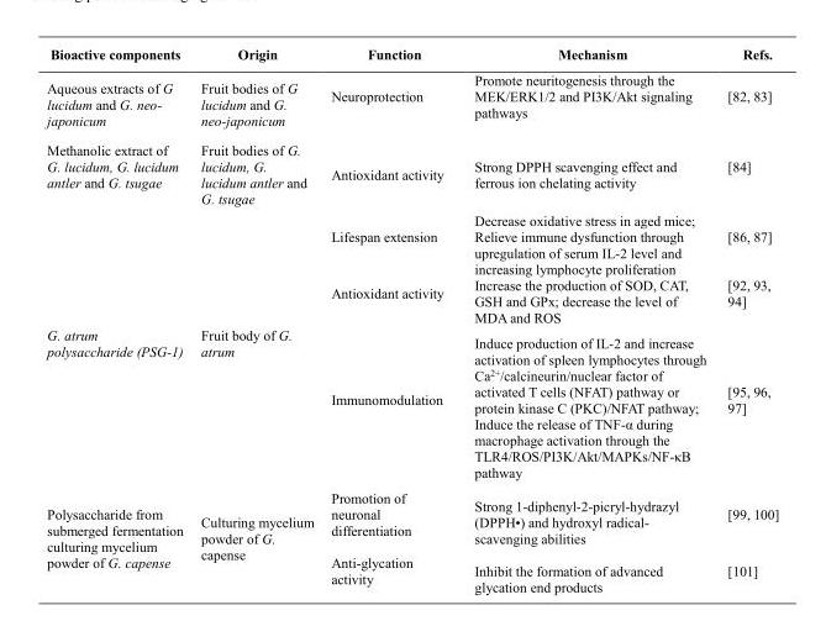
<table><thead><tr><td>Bioactive components</td><td>Origin</td><td>Function</td><td>Mechanism</td><td>Refs.</td></tr></thead><tbody><tr><td>Aqueous extracts of G lucidum and G. neo- japonicum</td><td>Fruit bodies of G lucidum and G. neo-japonicum</td><td>Neuroprotection</td><td>Promote neuritogenesis through the MEK/ERK1/2 and PI3K/Akt signaling pathways</td><td>[82, 83]</td></tr><tr><td>Methanolic extract of G. lucidum, G. lucidum antler and G. tsugae</td><td>Fruit bodies of G. lucidum, G. lucidum antler and G. tsugae</td><td>Antioxidant activity</td><td>Strong DPPH scavenging effect and ferrous ion chelating activity</td><td>[84]</td></tr><tr><td rowspan="3">G. atrum polysaccharide (PSG-1)</td><td rowspan="3">Fruit body of G. atrum</td><td>Lifespan extension</td><td>Decrease oxidative stress in aged mice; Relieve immune dysfunction through upregulation of serum IL-2 level and increasing lymphocyte proliferation</td><td>[86, 87]</td></tr><tr><td>Antioxidant activity</td><td>Increase the production of SOD, CAT, GSH and GPx; decrease the level of MDA and ROS</td><td>[92, 93, 94]</td></tr><tr><td>Immunomodulation</td><td>Induce production of IL-2 and increase activation of spleen lymphocytes through Ca<sup>2+</sup>/calcineurin/nuclear factor of activated T cells (NFAT) pathway or protein kinase C (PKC)/NFAT pathway; Induce the release of TNF-α during macrophage activation through the TLR4/ROS/PI3K/Akt/MAPKs/NF-κB pathway</td><td>[95, 96, 97]</td></tr><tr><td rowspan="2">Polysaccharide from submerged fermentation culturing mycelium powder of G. capense</td><td rowspan="2">Culturing mycelium powder of G. capense</td><td>Promotion of neuronal differentiation</td><td>Strong 1-diphenyl-2-picryl-hydrazyl (DPPH•) and hydroxyl radical- scavenging abilities</td><td>[99, 100]</td></tr><tr><td>Anti-glycation activity</td><td>Inhibit the formation of advanced glycation end products</td><td>[101]</td></tr></tbody></table>